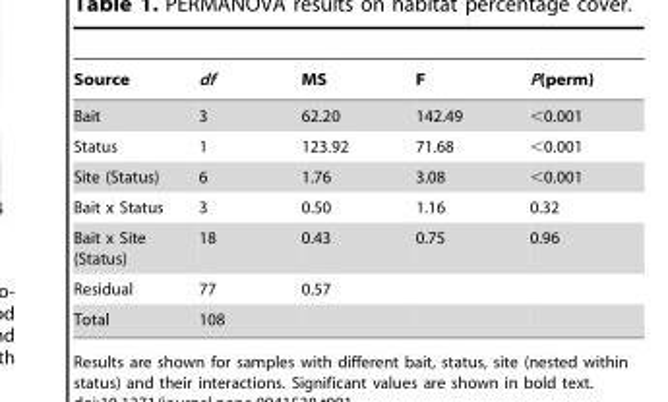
<table><thead><tr><td>Source</td><td>df</td><td>MS</td><td>F</td><td>P(perm)</td></tr></thead><tbody><tr><td>Bait</td><td>3</td><td>62.20</td><td>142.49</td><td>&lt;0.001</td></tr><tr><td>Status</td><td>1</td><td>123.92</td><td>71.68</td><td>&lt;0.001</td></tr><tr><td>Site (Status)</td><td>6</td><td>1.76</td><td>3.08</td><td>&lt;0.001</td></tr><tr><td>Bait x Status</td><td>3</td><td>0.50</td><td>1.16</td><td>0.32</td></tr><tr><td>Bait x Site (Status)</td><td>18</td><td>0.43</td><td>0.75</td><td>0.96</td></tr><tr><td>Residual</td><td>77</td><td>0.57</td><td></td><td></td></tr><tr><td>Total</td><td>108</td><td></td><td></td><td></td></tr></tbody></table>